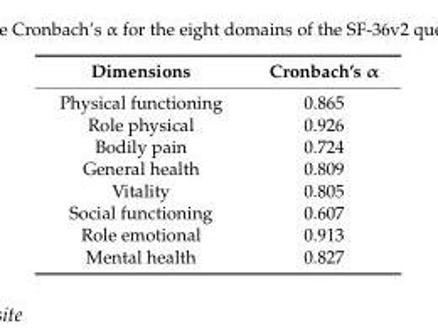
<table><thead><tr><td>Dimensions</td><td>Cronbach’s α</td></tr></thead><tbody><tr><td>Physical functioning</td><td>0.865</td></tr><tr><td>Role physical</td><td>0.926</td></tr><tr><td>Bodily pain</td><td>0.724</td></tr><tr><td>General health</td><td>0.809</td></tr><tr><td>Vitality</td><td>0.805</td></tr><tr><td>Social functioning</td><td>0.607</td></tr><tr><td>Role emotional</td><td>0.913</td></tr><tr><td>Mental health</td><td>0.827</td></tr></tbody></table>